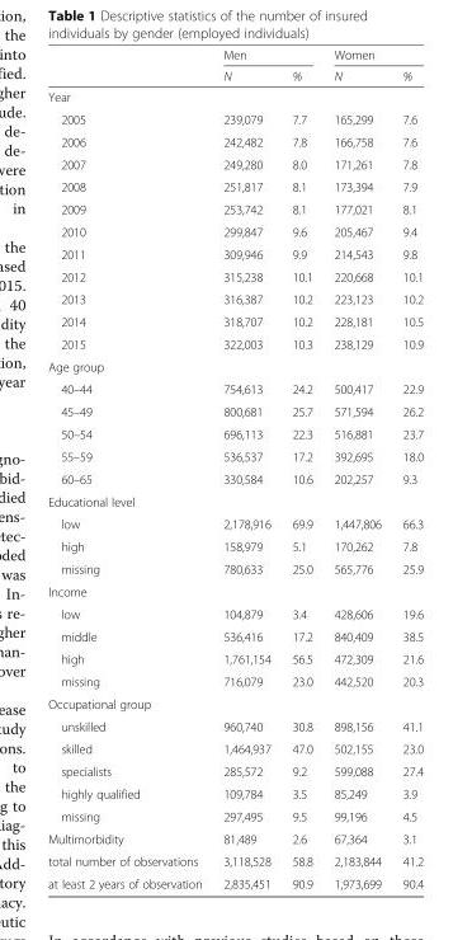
<table><thead><tr><td rowspan="2"></td><td colspan="2">Men</td><td colspan="2">Women</td></tr><tr><td>N</td><td>%</td><td>N</td><td>%</td></tr></thead><tbody><tr><td colspan="5">Year</td></tr><tr><td>2005</td><td>239,079</td><td>7.7</td><td>165,299</td><td>7.6</td></tr><tr><td>2006</td><td>242,482</td><td>7.8</td><td>166,758</td><td>7.6</td></tr><tr><td>2007</td><td>249,280</td><td>8.0</td><td>171,261</td><td>7.8</td></tr><tr><td>2008</td><td>251,817</td><td>8.1</td><td>173,394</td><td>7.9</td></tr><tr><td>2009</td><td>253,742</td><td>8.1</td><td>177,021</td><td>8.1</td></tr><tr><td>2010</td><td>299,847</td><td>9.6</td><td>205,467</td><td>9.4</td></tr><tr><td>2011</td><td>309,946</td><td>9.9</td><td>214,543</td><td>9.8</td></tr><tr><td>2012</td><td>315,238</td><td>10.1</td><td>220,668</td><td>10.1</td></tr><tr><td>2013</td><td>316,387</td><td>10.2</td><td>223,123</td><td>10.2</td></tr><tr><td>2014</td><td>318,707</td><td>10.2</td><td>228,181</td><td>10.5</td></tr><tr><td>2015</td><td>322,003</td><td>10.3</td><td>238,129</td><td>10.9</td></tr><tr><td colspan="5">Age group</td></tr><tr><td>40–44</td><td>754,613</td><td>24.2</td><td>500,417</td><td>22.9</td></tr><tr><td>45–49</td><td>800,681</td><td>25.7</td><td>571,594</td><td>26.2</td></tr><tr><td>50–54</td><td>696,113</td><td>22.3</td><td>516,881</td><td>23.7</td></tr><tr><td>55–59</td><td>536,537</td><td>17.2</td><td>392,695</td><td>18.0</td></tr><tr><td>60–65</td><td>330,584</td><td>10.6</td><td>202,257</td><td>9.3</td></tr><tr><td colspan="5">Educational level</td></tr><tr><td>low</td><td>2,178,916</td><td>69.9</td><td>1,447,806</td><td>66.3</td></tr><tr><td>high</td><td>158,979</td><td>5.1</td><td>170,262</td><td>7.8</td></tr><tr><td>missing</td><td>780,633</td><td>25.0</td><td>565,776</td><td>25.9</td></tr><tr><td colspan="5">Income</td></tr><tr><td>low</td><td>104,879</td><td>3.4</td><td>428,606</td><td>19.6</td></tr><tr><td>middle</td><td>536,416</td><td>17.2</td><td>840,409</td><td>38.5</td></tr><tr><td>high</td><td>1,761,154</td><td>56.5</td><td>472,309</td><td>21.6</td></tr><tr><td>missing</td><td>716,079</td><td>23.0</td><td>442,520</td><td>20.3</td></tr><tr><td colspan="5">Occupational group</td></tr><tr><td>unskilled</td><td>960,740</td><td>30.8</td><td>898,156</td><td>41.1</td></tr><tr><td>skilled</td><td>1,464,937</td><td>47.0</td><td>502,155</td><td>23.0</td></tr><tr><td>specialists</td><td>285,572</td><td>9.2</td><td>599,088</td><td>27.4</td></tr><tr><td>highly qualified</td><td>109,784</td><td>3.5</td><td>85,249</td><td>3.9</td></tr><tr><td>missing</td><td>297,495</td><td>9.5</td><td>99,196</td><td>4.5</td></tr><tr><td>Multimorbidity</td><td>81,489</td><td>2.6</td><td>67,364</td><td>3.1</td></tr><tr><td>total number of observations</td><td>3,118,528</td><td>58.8</td><td>2,183,844</td><td>41.2</td></tr><tr><td>at least 2 years of observation</td><td>2,835,451</td><td>90.9</td><td>1,973,699</td><td>90.4</td></tr></tbody></table>